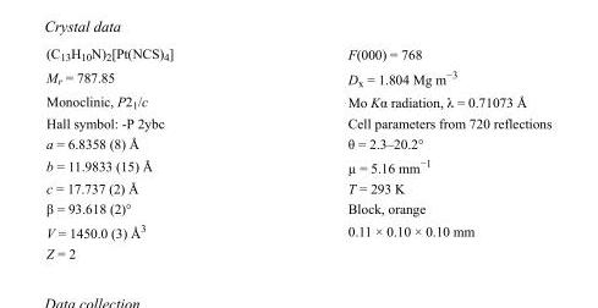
<table><tbody><tr><td>(C<sub>13</sub>H<sub>10</sub>N)<sub>2</sub>[Pt(NCS)<sub>4</sub>]</td><td>F(000) = 768</td></tr><tr><td>M<sub>r</sub> = 787.85</td><td>D<sub>x</sub> = 1.804 Mg m<sup>−3</sup></td></tr><tr><td>Monoclinic, P2<sub>1</sub>/c</td><td>Mo Kα radiation, λ = 0.71073 Å</td></tr><tr><td>Hall symbol: -P 2ybc</td><td>Cell parameters from 720 reflections</td></tr><tr><td>a = 6.8358 (8) Å</td><td>θ = 2.3–20.2°</td></tr><tr><td>b = 11.9833 (15) Å</td><td>µ = 5.16 mm<sup>−1</sup></td></tr><tr><td>c = 17.737 (2) Å</td><td>T = 293 K</td></tr><tr><td>β = 93.618 (2)°</td><td>Block, orange</td></tr><tr><td>V = 1450.0 (3) Å<sup>3</sup></td><td>0.11 × 0.10 × 0.10 mm</td></tr><tr><td>Z = 2</td><td></td></tr></tbody></table>